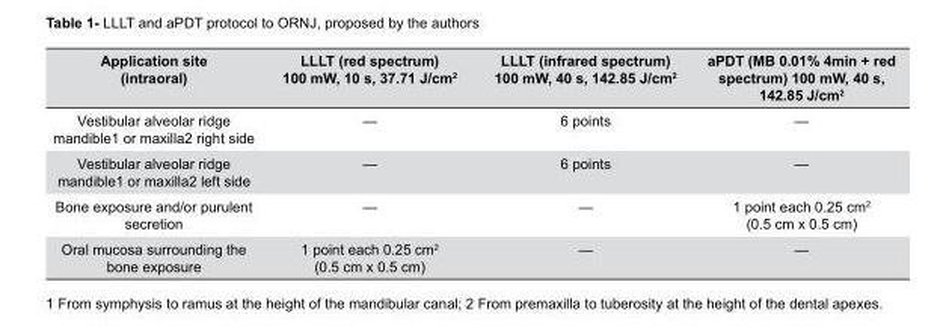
<table><thead><tr><td>Application site (intraoral)</td><td>LLLT (red spectrum) 100 mW, 10 s, 37.71 J/cm<sup>2</sup></td><td>LLLT (infrared spectrum) 100 mW, 40 s, 142.85 J/cm<sup>2</sup></td><td>aPDT (MB 0.01% 4min + red spectrum) 100 mW, 40 s, 142.85 J/cm<sup>2</sup></td></tr></thead><tbody><tr><td>Vestibular alveolar ridge mandible1 or maxilla2 right side</td><td>—</td><td>6 points</td><td>—</td></tr><tr><td>Vestibular alveolar ridge mandible1 or maxilla2 left side</td><td>—</td><td>6 points</td><td>—</td></tr><tr><td>Bone exposure and/or purulent secretion</td><td>—</td><td>—</td><td>1 point each 0.25 cm2 (0.5 cm x 0.5 cm)</td></tr><tr><td>Oral mucosa surrounding the bone exposure</td><td>1 point each 0.25 cm2 (0.5 cm x 0.5 cm)</td><td>—</td><td>—</td></tr></tbody></table>